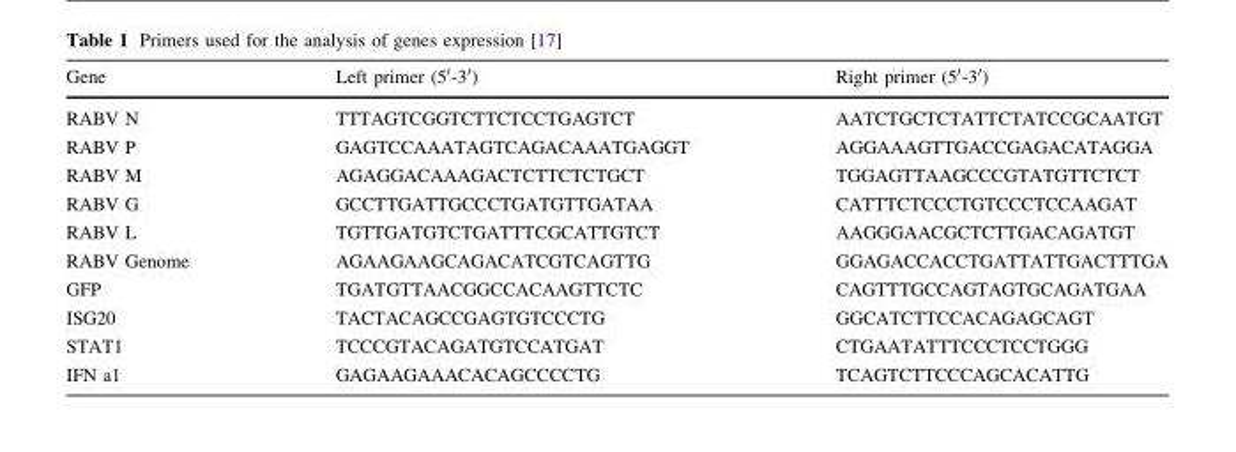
<table><thead><tr><td>Gene</td><td>Left primer (5′-3′)</td><td>Right primer (5′-3′)</td></tr></thead><tbody><tr><td>RABV N</td><td>TTTAGTCGGTCTTCTCCTGAGTCT</td><td>AATCTGCTCTATTCTATCCGCAATGT</td></tr><tr><td>RABV P</td><td>GAGTCCAAATAGTCAGACAAATGAGGT</td><td>AGGAAAGTTGACCGAGACATAGGA</td></tr><tr><td>RABV M</td><td>AGAGGACAAAGACTCTTCTCTGCT</td><td>TGGAGTTAAGCCCGTATGTTCTCT</td></tr><tr><td>RABV G</td><td>GCCTTGATTGCCCTGATGTTGATAA</td><td>CATTTCTCCCTGTCCCTCCAAGAT</td></tr><tr><td>RABV L</td><td>TGTTGATGTCTGATTTCGCATTGTCT</td><td>AAGGGAACGCTCTTGACAGATGT</td></tr><tr><td>RABV Genome</td><td>AGAAGAAGCAGACATCGTCAGTTG</td><td>GGAGACCACCTGATTATTGACTTTGA</td></tr><tr><td>GFP</td><td>TGATGTTAACGGCCACAAGTTCTC</td><td>CAGTTTGCCAGTAGTGCAGATGAA</td></tr><tr><td>ISG20</td><td>TACTACAGCCGAGTGTCCCTG</td><td>GGCATCTTCCACAGAGCAGT</td></tr><tr><td>STAT1</td><td>TCCCGTACAGATGTCCATGAT</td><td>CTGAATATTTCCCTCCTGGG</td></tr><tr><td>IFN a1</td><td>GAGAAGAAACACAGCCCCTG</td><td>TCAGTCTTCCCAGCACATTG</td></tr></tbody></table>